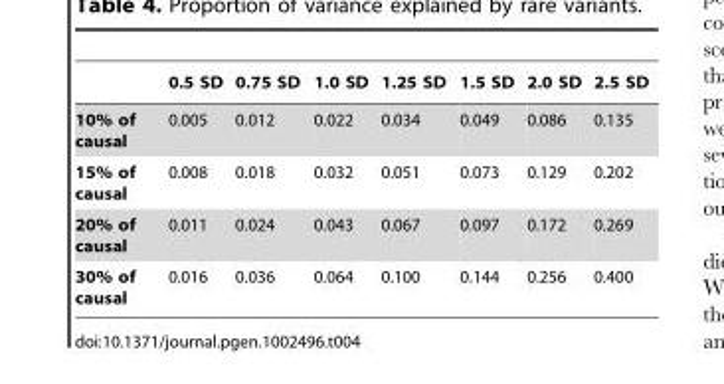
<table><thead><tr><td></td><td>0.5 SD</td><td>0.75 SD</td><td>1.0 SD</td><td>1.25 SD</td><td>1.5 SD</td><td>2.0 SD</td><td>2.5 SD</td></tr></thead><tbody><tr><td>10% of causal</td><td>0.005</td><td>0.012</td><td>0.022</td><td>0.034</td><td>0.049</td><td>0.086</td><td>0.135</td></tr><tr><td>15% of causal</td><td>0.008</td><td>0.018</td><td>0.032</td><td>0.051</td><td>0.073</td><td>0.129</td><td>0.202</td></tr><tr><td>20% of causal</td><td>0.011</td><td>0.024</td><td>0.043</td><td>0.067</td><td>0.097</td><td>0.172</td><td>0.269</td></tr><tr><td>30% of causal</td><td>0.016</td><td>0.036</td><td>0.064</td><td>0.100</td><td>0.144</td><td>0.256</td><td>0.400</td></tr></tbody></table>